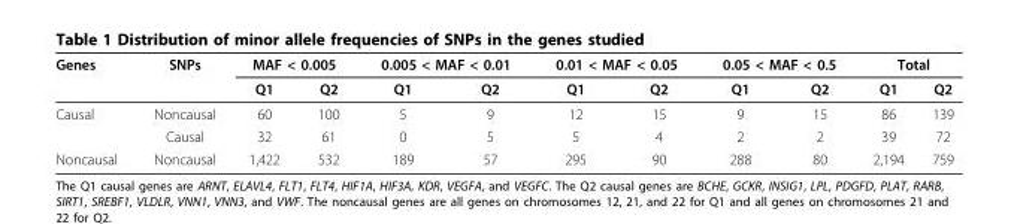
<table><thead><tr><td rowspan="2">Genes</td><td rowspan="2">SNPs</td><td colspan="2">MAF &lt; 0.005</td><td colspan="2">0.005 &lt; MAF &lt; 0.01</td><td colspan="2">0.01 &lt; MAF &lt; 0.05</td><td colspan="2">0.05 &lt; MAF &lt; 0.5</td><td colspan="2">Total</td></tr><tr><td>Q1</td><td>Q2</td><td>Q1</td><td>Q2</td><td>Q1</td><td>Q2</td><td>Q1</td><td>Q2</td><td>Q1</td><td>Q2</td></tr></thead><tbody><tr><td rowspan="2">Causal</td><td>Noncausal</td><td>60</td><td>100</td><td>5</td><td>9</td><td>12</td><td>15</td><td>9</td><td>15</td><td>86</td><td>139</td></tr><tr><td>Causal</td><td>32</td><td>61</td><td>0</td><td>5</td><td>5</td><td>4</td><td>2</td><td>2</td><td>39</td><td>72</td></tr><tr><td>Noncausal</td><td>Noncausal</td><td>1,422</td><td>532</td><td>189</td><td>57</td><td>295</td><td>90</td><td>288</td><td>80</td><td>2,194</td><td>759</td></tr></tbody></table>